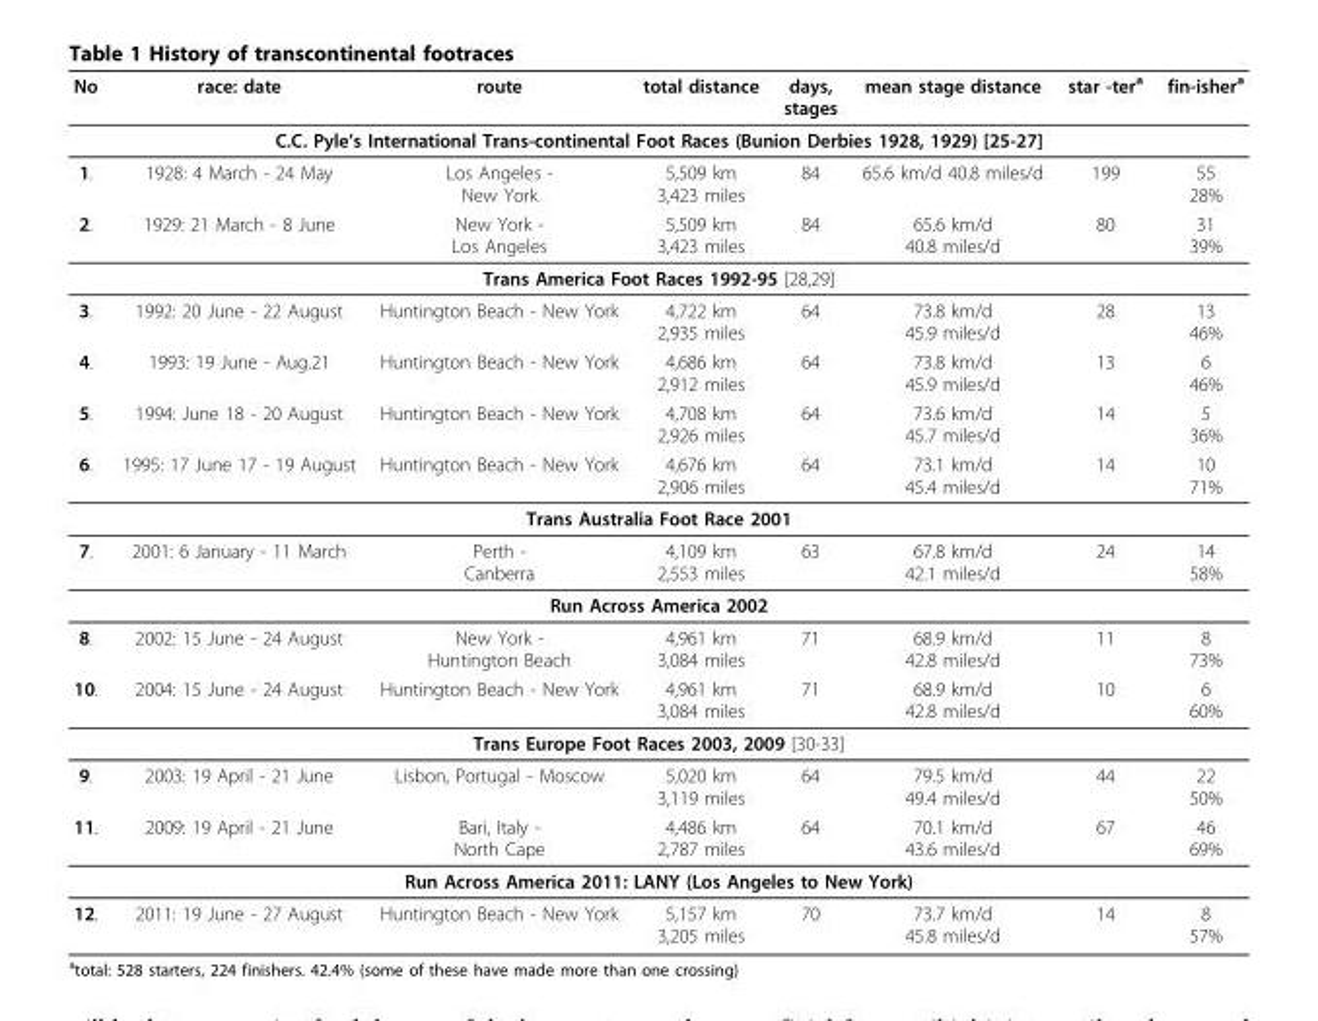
<table><thead><tr><td>No</td><td>race: date</td><td>route</td><td>total distance</td><td>days, stages</td><td>mean stage distance</td><td>star -ter<sup>a</sup></td><td>fin-isher<sup>a</sup></td></tr></thead><tbody><tr><td colspan="8">C.C. Pyle’s International Trans-continental Foot Races (Bunion Derbies 1928, 1929) [25-27]</td></tr><tr><td>1.</td><td>1928: 4 March - 24 May</td><td>Los Angeles - New York</td><td>5,509 km 3,423 miles</td><td>84</td><td>65.6 km/d 40.8 miles/d</td><td>199</td><td>55 28%</td></tr><tr><td>2.</td><td>1929: 21 March - 8 June</td><td>New York - Los Angeles</td><td>5,509 km 3,423 miles</td><td>84</td><td>65.6 km/d 40.8 miles/d</td><td>80</td><td>31 39%</td></tr><tr><td colspan="8">Trans America Foot Races 1992-95 [28,29]</td></tr><tr><td>3.</td><td>1992: 20 June - 22 August</td><td>Huntington Beach - New York</td><td>4,722 km 2,935 miles</td><td>64</td><td>73.8 km/d 45.9 miles/d</td><td>28</td><td>13 46%</td></tr><tr><td>4.</td><td>1993: 19 June - Aug.21</td><td>Huntington Beach - New York</td><td>4,686 km 2,912 miles</td><td>64</td><td>73.8 km/d 45.9 miles/d</td><td>13</td><td>6 46%</td></tr><tr><td>5.</td><td>1994: June 18 - 20 August</td><td>Huntington Beach - New York</td><td>4,708 km 2,926 miles</td><td>64</td><td>73.6 km/d 45.7 miles/d</td><td>14</td><td>5 36%</td></tr><tr><td>6.</td><td>1995: 17 June 17 - 19 August</td><td>Huntington Beach - New York</td><td>4,676 km 2,906 miles</td><td>64</td><td>73.1 km/d 45.4 miles/d</td><td>14</td><td>10 71%</td></tr><tr><td colspan="8">Trans Australia Foot Race 2001</td></tr><tr><td>7.</td><td>2001: 6 January - 11 March</td><td>Perth - Canberra</td><td>4,109 km 2,553 miles</td><td>63</td><td>67.8 km/d 42.1 miles/d</td><td>24</td><td>14 58%</td></tr><tr><td colspan="8">Run Across America 2002</td></tr><tr><td>8.</td><td>2002: 15 June - 24 August</td><td>New York - Huntington Beach</td><td>4,961 km 3,084 miles</td><td>71</td><td>68.9 km/d 42.8 miles/d</td><td>11</td><td>8 73%</td></tr><tr><td>10.</td><td>2004: 15 June - 24 August</td><td>Huntington Beach - New York</td><td>4,961 km 3,084 miles</td><td>71</td><td>68.9 km/d 42.8 miles/d</td><td>10</td><td>6 60%</td></tr><tr><td colspan="8">Trans Europe Foot Races 2003, 2009 [30-33]</td></tr><tr><td>9.</td><td>2003: 19 April - 21 June</td><td>Lisbon, Portugal - Moscow</td><td>5,020 km 3,119 miles</td><td>64</td><td>79.5 km/d 49.4 miles/d</td><td>44</td><td>22 50%</td></tr><tr><td>11.</td><td>2009: 19 April - 21 June</td><td>Bari, Italy - North Cape</td><td>4,486 km 2,787 miles</td><td>64</td><td>70.1 km/d 43.6 miles/d</td><td>67</td><td>46 69%</td></tr><tr><td colspan="8">Run Across America 2011: LANY (Los Angeles to New York)</td></tr><tr><td>12.</td><td>2011: 19 June - 27 August</td><td>Huntington Beach - New York</td><td>5,157 km 3,205 miles</td><td>70</td><td>73.7 km/d 45.8 miles/d</td><td>14</td><td>8 57%</td></tr></tbody></table>